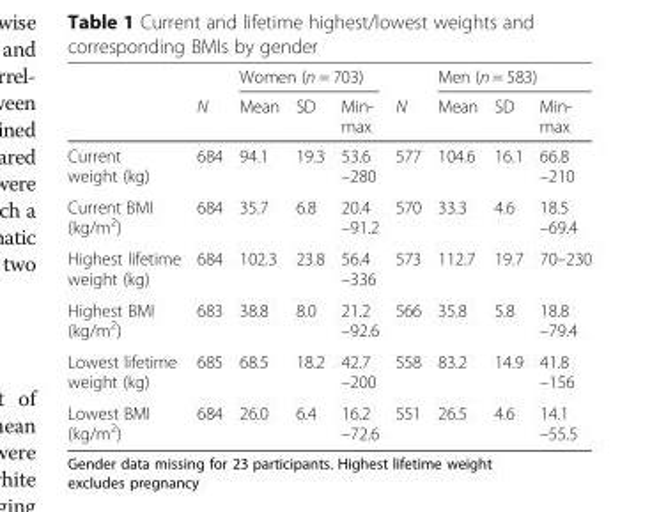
<table><thead><tr><td rowspan="2"></td><td rowspan="2">N</td><td colspan="3">Women (n = 703)</td><td rowspan="2">N</td><td colspan="3">Men (n = 583)</td></tr><tr><td>Mean</td><td>SD</td><td>Min- max</td><td>Mean</td><td>SD</td><td>Min- max</td></tr></thead><tbody><tr><td>Current weight (kg)</td><td>684</td><td>94.1</td><td>19.3</td><td>53.6 –280</td><td>577</td><td>104.6</td><td>16.1</td><td>66.8 –210</td></tr><tr><td>Current BMI (kg/m<sup>2</sup>)</td><td>684</td><td>35.7</td><td>6.8</td><td>20.4 –91.2</td><td>570</td><td>33.3</td><td>4.6</td><td>18.5 –69.4</td></tr><tr><td>Highest lifetime weight (kg)</td><td>684</td><td>102.3</td><td>23.8</td><td>56.4 –336</td><td>573</td><td>112.7</td><td>19.7</td><td>70–230</td></tr><tr><td>Highest BMI (kg/m<sup>2</sup>)</td><td>683</td><td>38.8</td><td>8.0</td><td>21.2 –92.6</td><td>566</td><td>35.8</td><td>5.8</td><td>18.8 –79.4</td></tr><tr><td>Lowest lifetime weight (kg)</td><td>685</td><td>68.5</td><td>18.2</td><td>42.7 –200</td><td>558</td><td>83.2</td><td>14.9</td><td>41.8 –156</td></tr><tr><td>Lowest BMI (kg/m<sup>2</sup>)</td><td>684</td><td>26.0</td><td>6.4</td><td>16.2 –72.6</td><td>551</td><td>26.5</td><td>4.6</td><td>14.1 –55.5</td></tr></tbody></table>